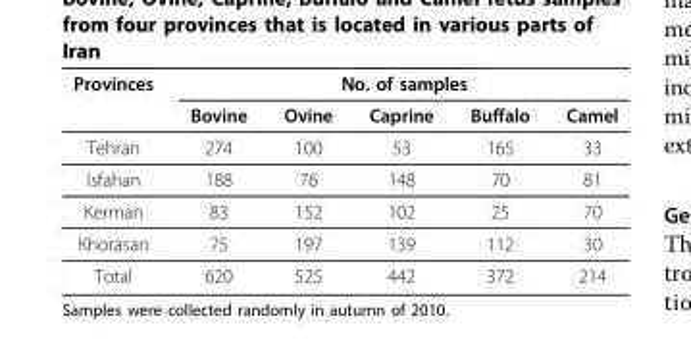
<table><thead><tr><td rowspan="2">Provinces</td><td colspan="5">No. of samples</td></tr><tr><td>Bovine</td><td>Ovine</td><td>Caprine</td><td>Buffalo</td><td>Camel</td></tr></thead><tbody><tr><td>Tehran</td><td>274</td><td>100</td><td>53</td><td>165</td><td>33</td></tr><tr><td>Isfahan</td><td>188</td><td>76</td><td>148</td><td>70</td><td>81</td></tr><tr><td>Kerman</td><td>83</td><td>152</td><td>102</td><td>25</td><td>70</td></tr><tr><td>Khorasan</td><td>75</td><td>197</td><td>139</td><td>112</td><td>30</td></tr><tr><td>Total</td><td>620</td><td>525</td><td>442</td><td>372</td><td>214</td></tr></tbody></table>